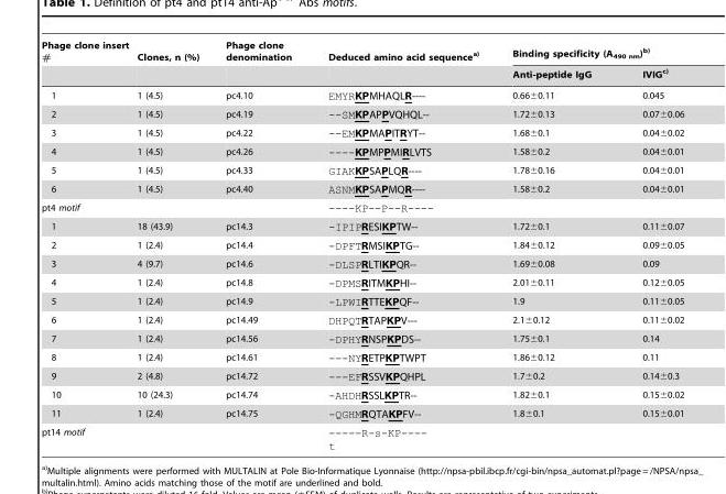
<table><thead><tr><td rowspan="2">Phage clone insert #</td><td rowspan="2">Clones, n (%)</td><td rowspan="2">Phage clone denomination</td><td rowspan="2">Deduced amino acid sequencea)</td><td colspan="2">Binding specificity (A<sub>490 nm</sub>)b)</td></tr><tr><td>Anti-peptide IgG</td><td>IVIGc)</td></tr></thead><tbody><tr><td>1</td><td>1 (4.5)</td><td>pc4.10</td><td>EMYRKPMHAQLR----</td><td>0.66±0.11</td><td>0.045</td></tr><tr><td>2</td><td>1 (4.5)</td><td>pc4.19</td><td>--SMKPAPPVQHQL--</td><td>1.72±0.13</td><td>0.07±0.06</td></tr><tr><td>3</td><td>1 (4.5)</td><td>pc4.22</td><td>--EMKPMAPITRYT--</td><td>1.68±0.1</td><td>0.04±0.02</td></tr><tr><td>4</td><td>1 (4.5)</td><td>pc4.26</td><td>----KPMPPMIRLVTS</td><td>1.58±0.2</td><td>0.04±0.01</td></tr><tr><td>5</td><td>1 (4.5)</td><td>pc4.33</td><td>GIAKKPSAPLQR----</td><td>1.78±0.16</td><td>0.04±0.01</td></tr><tr><td>6</td><td>1 (4.5)</td><td>pc4.40</td><td>ASNMKPSAPMQR----</td><td>1.58±0.2</td><td>0.04±0.01</td></tr><tr><td>pt4 motif</td><td></td><td></td><td>----KP--P--R----</td><td></td><td></td></tr><tr><td>1</td><td>18 (43.9)</td><td>pc14.3</td><td>-IPIPRESIKPTW--</td><td>1.72±0.1</td><td>0.11±0.07</td></tr><tr><td>2</td><td>1 (2.4)</td><td>pc14.4</td><td>-DPFTRMSIKPTG--</td><td>1.84±0.12</td><td>0.09±0.05</td></tr><tr><td>3</td><td>4 (9.7)</td><td>pc14.6</td><td>-DLSPRLTIKPQR--</td><td>1.69±0.08</td><td>0.09</td></tr><tr><td>4</td><td>1 (2.4)</td><td>pc14.8</td><td>-DPMSRITMKPHI--</td><td>2.01±0.11</td><td>0.12±0.05</td></tr><tr><td>5</td><td>1 (2.4)</td><td>pc14.9</td><td>-LPWIRTTEKPQF--</td><td>1.9</td><td>0.11±0.05</td></tr><tr><td>6</td><td>1 (2.4)</td><td>pc14.49</td><td>DHPQTRTAPKPV---</td><td>2.1±0.12</td><td>0.11±0.02</td></tr><tr><td>7</td><td>1 (2.4)</td><td>pc14.56</td><td>-DPHYRNSPKPDS--</td><td>1.75±0.1</td><td>0.14</td></tr><tr><td>8</td><td>1 (2.4)</td><td>pc14.61</td><td>---NYRETPKPTWPT</td><td>1.86±0.12</td><td>0.11</td></tr><tr><td>9</td><td>2 (4.8)</td><td>pc14.72</td><td>---EFRSSVKPQHPL</td><td>1.7±0.2</td><td>0.14±0.3</td></tr><tr><td>10</td><td>10 (24.3)</td><td>pc14.74</td><td>-AHDHRSSLKPTR--</td><td>1.82±0.1</td><td>0.15±0.02</td></tr><tr><td>11</td><td>1 (2.4)</td><td>pc14.75</td><td>-QGHMRQTAKPFV--</td><td>1.8±0.1</td><td>0.15±0.01</td></tr><tr><td>pt14 motif</td><td></td><td></td><td>-----R-s-KP---- t</td><td></td><td></td></tr></tbody></table>